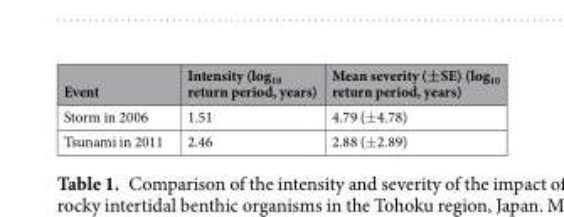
<table><thead><tr><td>Event</td><td>Intensity (log<sub>10</sub> return period, years)</td><td>Mean severity (±SE) (log<sub>10</sub> return period, years)</td></tr></thead><tbody><tr><td>Storm in 2006</td><td>1.51</td><td>4.79 (±4.78)</td></tr><tr><td>Tsunami in 2011</td><td>2.46</td><td>2.88 (±2.89)</td></tr></tbody></table>